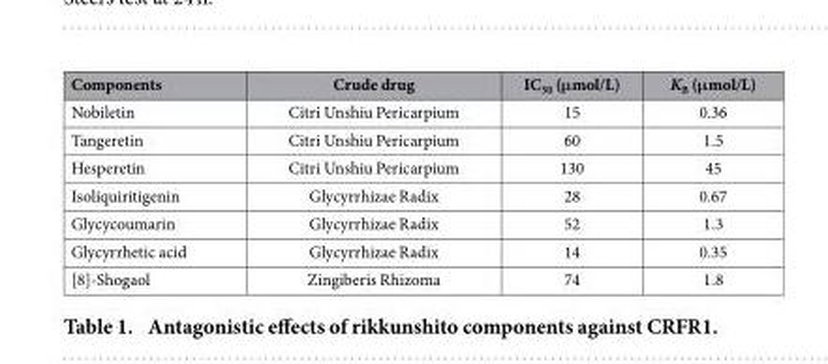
<table><thead><tr><td>Components</td><td>Crude drug</td><td>IC<sub>50</sub> (μmol/L)</td><td>K<sub>B</sub> (μmol/L)</td></tr></thead><tbody><tr><td>Nobiletin</td><td>Citri Unshiu Pericarpium</td><td>15</td><td>0.36</td></tr><tr><td>Tangeretin</td><td>Citri Unshiu Pericarpium</td><td>60</td><td>1.5</td></tr><tr><td>Hesperetin</td><td>Citri Unshiu Pericarpium</td><td>130</td><td>45</td></tr><tr><td>Isoliquiritigenin</td><td>Glycyrrhizae Radix</td><td>28</td><td>0.67</td></tr><tr><td>Glycycoumarin</td><td>Glycyrrhizae Radix</td><td>52</td><td>1.3</td></tr><tr><td>Glycyrrhetic acid</td><td>Glycyrrhizae Radix</td><td>14</td><td>0.35</td></tr><tr><td>[8]-Shogaol</td><td>Zingiberis Rhizoma</td><td>74</td><td>1.8</td></tr></tbody></table>